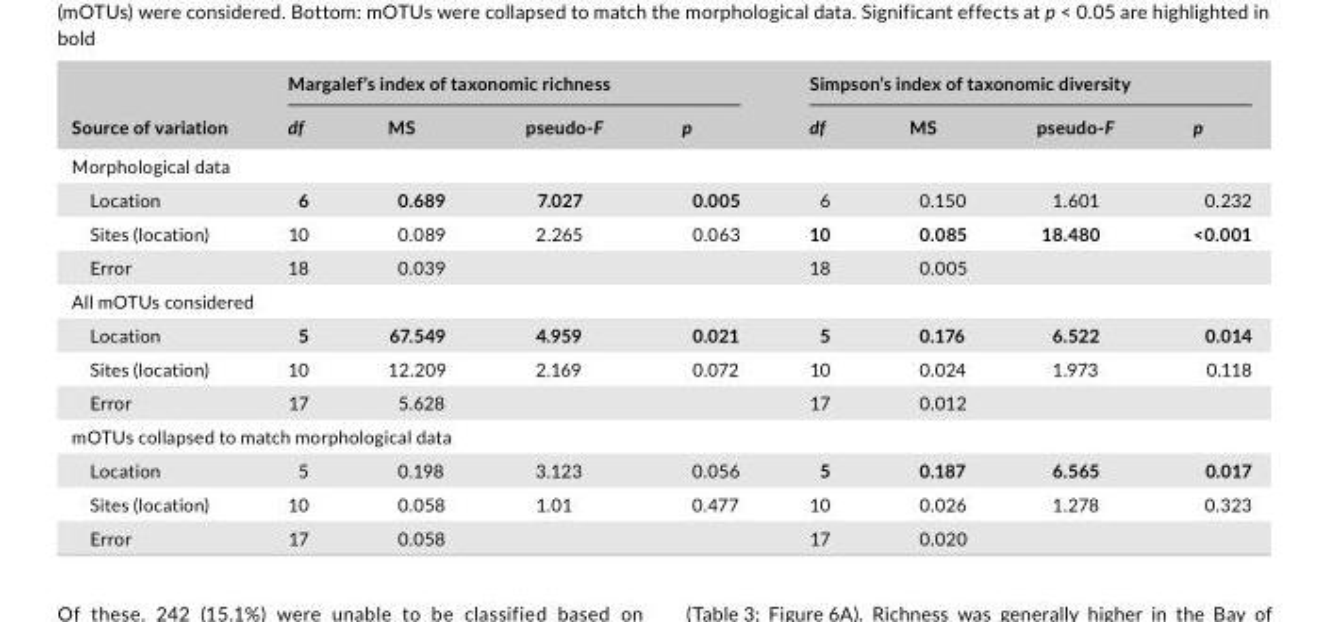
<table><thead><tr><td rowspan="2">Source of variation</td><td colspan="4">Margalef’s index of taxonomic richness</td><td colspan="4">Simpson’s index of taxonomic diversity</td></tr><tr><td>df</td><td>MS</td><td>pseudo- F</td><td>p</td><td>df</td><td>MS</td><td>pseudo- F</td><td>p</td></tr></thead><tbody><tr><td colspan="9">Morphological data</td></tr><tr><td>Location</td><td>6</td><td>0.689</td><td>7.027</td><td>0.005</td><td>6</td><td>0.150</td><td>1.601</td><td>0.232</td></tr><tr><td>Sites (location)</td><td>10</td><td>0.089</td><td>2.265</td><td>0.063</td><td>10</td><td>0.085</td><td>18.480</td><td>&lt;0.001</td></tr><tr><td>Error</td><td>18</td><td>0.039</td><td></td><td></td><td>18</td><td>0.005</td><td></td><td></td></tr><tr><td colspan="9">All mOTUs considered</td></tr><tr><td>Location</td><td>5</td><td>67.549</td><td>4.959</td><td>0.021</td><td>5</td><td>0.176</td><td>6.522</td><td>0.014</td></tr><tr><td>Sites (location)</td><td>10</td><td>12.209</td><td>2.169</td><td>0.072</td><td>10</td><td>0.024</td><td>1.973</td><td>0.118</td></tr><tr><td>Error</td><td>17</td><td>5.628</td><td></td><td></td><td>17</td><td>0.012</td><td></td><td></td></tr><tr><td colspan="9">mOTUs collapsed to match morphological data</td></tr><tr><td>Location</td><td>5</td><td>0.198</td><td>3.123</td><td>0.056</td><td>5</td><td>0.187</td><td>6.565</td><td>0.017</td></tr><tr><td>Sites (location)</td><td>10</td><td>0.058</td><td>1.01</td><td>0.477</td><td>10</td><td>0.026</td><td>1.278</td><td>0.323</td></tr><tr><td>Error</td><td>17</td><td>0.058</td><td></td><td></td><td>17</td><td>0.020</td><td></td><td></td></tr></tbody></table>